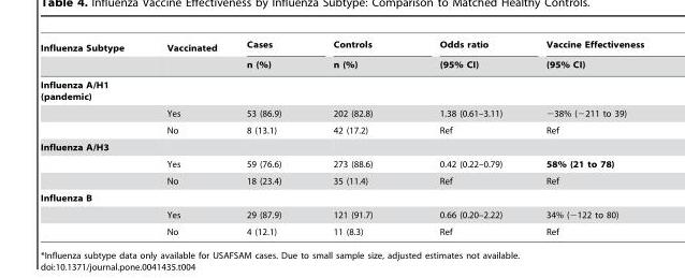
<table><thead><tr><td rowspan="2">Influenza Subtype</td><td rowspan="2">Vaccinated</td><td rowspan="2">Cases n (%)</td><td rowspan="2">Controls n (%)</td><td rowspan="2">Odds ratio (95% CI)</td><td rowspan="2">Vaccine Effectiveness (95% CI)</td></tr><tr></tr></thead><tbody><tr><td colspan="6">Influenza A/H1 (pandemic)</td></tr><tr><td></td><td>Yes</td><td>53 (86.9)</td><td>202 (82.8)</td><td>1.38 (0.61–3.11)</td><td>−38% (−211 to 39)</td></tr><tr><td></td><td>No</td><td>8 (13.1)</td><td>42 (17.2)</td><td>Ref</td><td>Ref</td></tr><tr><td colspan="6">Influenza A/H3</td></tr><tr><td></td><td>Yes</td><td>59 (76.6)</td><td>273 (88.6)</td><td>0.42 (0.22–0.79)</td><td>58% (21 to 78)</td></tr><tr><td></td><td>No</td><td>18 (23.4)</td><td>35 (11.4)</td><td>Ref</td><td>Ref</td></tr><tr><td colspan="6">Influenza B</td></tr><tr><td></td><td>Yes</td><td>29 (87.9)</td><td>121 (91.7)</td><td>0.66 (0.20–2.22)</td><td>34% (−122 to 80)</td></tr><tr><td></td><td>No</td><td>4 (12.1)</td><td>11 (8.3)</td><td>Ref</td><td>Ref</td></tr></tbody></table>